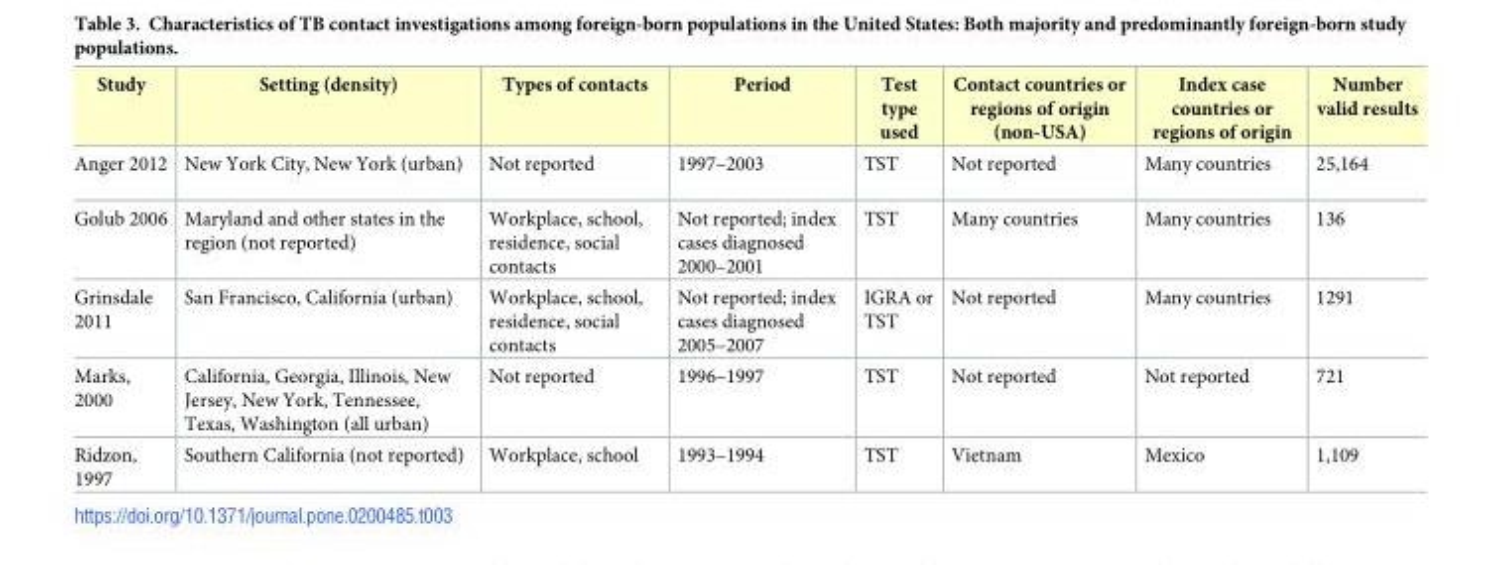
<table><thead><tr><td>Study</td><td>Setting (density)</td><td>Types of contacts</td><td>Period</td><td>Test type used</td><td>Contact countries or regions of origin (non-USA)</td><td>Index case countries or regions of origin</td><td>Number valid results</td></tr></thead><tbody><tr><td>Anger 2012</td><td>New York City, New York (urban)</td><td>Not reported</td><td>1997–2003</td><td>TST</td><td>Not reported</td><td>Many countries</td><td>25,164</td></tr><tr><td>Golub 2006</td><td>Maryland and other states in the region (not reported)</td><td>Workplace, school, residence, social contacts</td><td>Not reported; index cases diagnosed 2000–2001</td><td>TST</td><td>Many countries</td><td>Many countries</td><td>136</td></tr><tr><td>Grinsdale 2011</td><td>San Francisco, California (urban)</td><td>Workplace, school, residence, social contacts</td><td>Not reported; index cases diagnosed 2005–2007</td><td>IGRA or TST</td><td>Not reported</td><td>Many countries</td><td>1291</td></tr><tr><td>Marks, 2000</td><td>California, Georgia, Illinois, New Jersey, New York, Tennessee, Texas, Washington (all urban)</td><td>Not reported</td><td>1996–1997</td><td>TST</td><td>Not reported</td><td>Not reported</td><td>721</td></tr><tr><td>Ridzon, 1997</td><td>Southern California (not reported)</td><td>Workplace, school</td><td>1993–1994</td><td>TST</td><td>Vietnam</td><td>Mexico</td><td>1,109</td></tr></tbody></table>